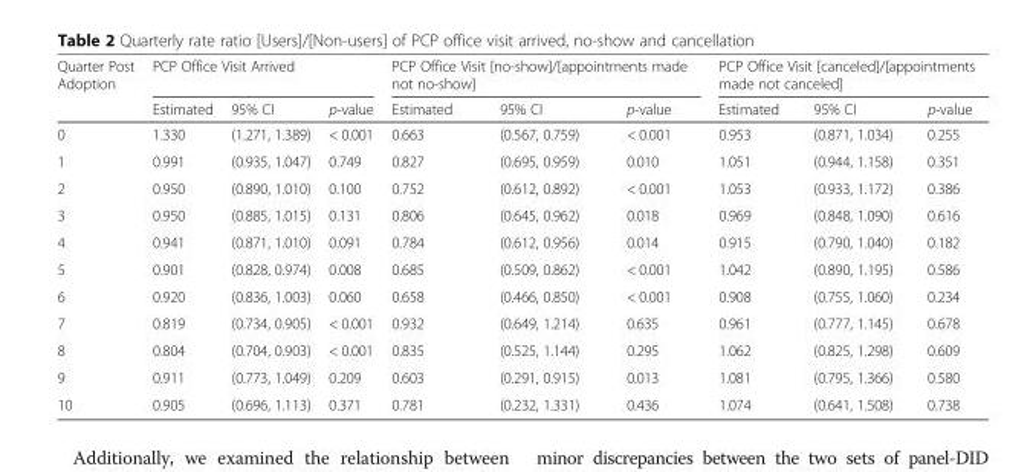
<table><thead><tr><td rowspan="2">Quarter Post Adoption</td><td colspan="3">PCP Office Visit Arrived</td><td colspan="3">PCP Office Visit [no-show]/[appointments made not no-show]</td><td colspan="3">PCP Office Visit [canceled]/[appointments made not canceled]</td></tr><tr><td>Estimated</td><td>95% CI</td><td>p-value</td><td>Estimated</td><td>95% CI</td><td>p-value</td><td>Estimated</td><td>95% CI</td><td>p-value</td></tr></thead><tbody><tr><td>0</td><td>1.330</td><td>(1.271, 1.389)</td><td>&lt; 0.001</td><td>0.663</td><td>(0.567, 0.759)</td><td>&lt; 0.001</td><td>0.953</td><td>(0.871, 1.034)</td><td>0.255</td></tr><tr><td>1</td><td>0.991</td><td>(0.935, 1.047)</td><td>0.749</td><td>0.827</td><td>(0.695, 0.959)</td><td>0.010</td><td>1.051</td><td>(0.944, 1.158)</td><td>0.351</td></tr><tr><td>2</td><td>0.950</td><td>(0.890, 1.010)</td><td>0.100</td><td>0.752</td><td>(0.612, 0.892)</td><td>&lt; 0.001</td><td>1.053</td><td>(0.933, 1.172)</td><td>0.386</td></tr><tr><td>3</td><td>0.950</td><td>(0.885, 1.015)</td><td>0.131</td><td>0.806</td><td>(0.645, 0.962)</td><td>0.018</td><td>0.969</td><td>(0.848, 1.090)</td><td>0.616</td></tr><tr><td>4</td><td>0.941</td><td>(0.871, 1.010)</td><td>0.091</td><td>0.784</td><td>(0.612, 0.956)</td><td>0.014</td><td>0.915</td><td>(0.790, 1.040)</td><td>0.182</td></tr><tr><td>5</td><td>0.901</td><td>(0.828, 0.974)</td><td>0.008</td><td>0.685</td><td>(0.509, 0.862)</td><td>&lt; 0.001</td><td>1.042</td><td>(0.890, 1.195)</td><td>0.586</td></tr><tr><td>6</td><td>0.920</td><td>(0.836, 1.003)</td><td>0.060</td><td>0.658</td><td>(0.466, 0.850)</td><td>&lt; 0.001</td><td>0.908</td><td>(0.755, 1.060)</td><td>0.234</td></tr><tr><td>7</td><td>0.819</td><td>(0.734, 0.905)</td><td>&lt; 0.001</td><td>0.932</td><td>(0.649, 1.214)</td><td>0.635</td><td>0.961</td><td>(0.777, 1.145)</td><td>0.678</td></tr><tr><td>8</td><td>0.804</td><td>(0.704, 0.903)</td><td>&lt; 0.001</td><td>0.835</td><td>(0.525, 1.144)</td><td>0.295</td><td>1.062</td><td>(0.825, 1.298)</td><td>0.609</td></tr><tr><td>9</td><td>0.911</td><td>(0.773, 1.049)</td><td>0.209</td><td>0.603</td><td>(0.291, 0.915)</td><td>0.013</td><td>1.081</td><td>(0.795, 1.366)</td><td>0.580</td></tr><tr><td>10</td><td>0.905</td><td>(0.696, 1.113)</td><td>0.371</td><td>0.781</td><td>(0.232, 1.331)</td><td>0.436</td><td>1.074</td><td>(0.641, 1.508)</td><td>0.738</td></tr></tbody></table>